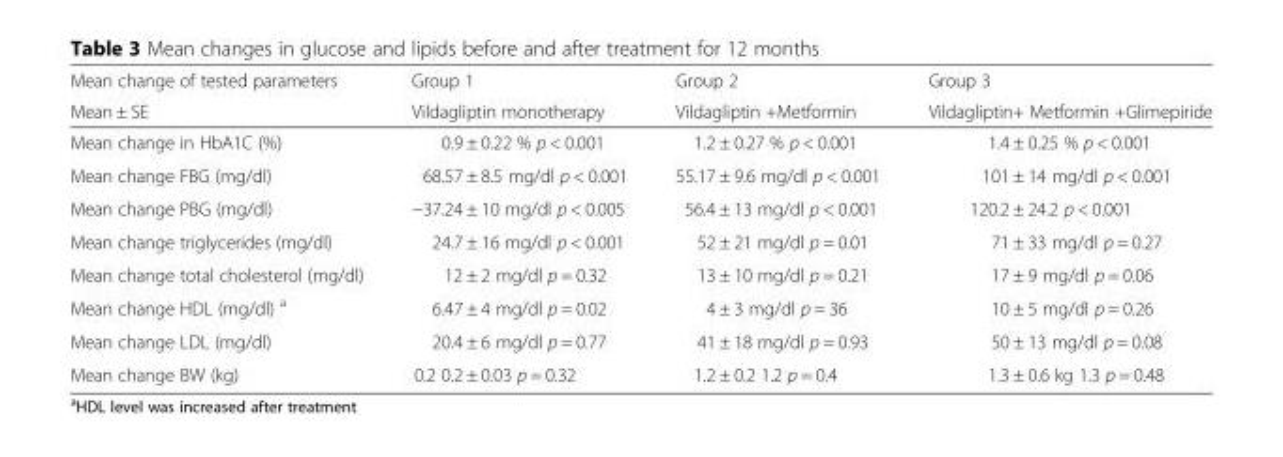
<table><thead><tr><td rowspan="2">Mean change of tested parameters Μean ± SE</td><td rowspan="2">Group 1 Vildagliptin monotherapy</td><td rowspan="2">Group 2 Vildagliptin +Metformin</td><td rowspan="2">Group 3 Vildagliptin+ Metformin +Glimepiride</td></tr><tr></tr></thead><tbody><tr><td>Mean change in HbA1C (%)</td><td>0.9 ± 0.22 % p &lt; 0.001</td><td>1.2 ± 0.27 % p &lt; 0.001</td><td>1.4 ± 0.25 % p &lt; 0.001</td></tr><tr><td>Mean change FBG (mg/dl)</td><td>68.57 ± 8.5 mg/dl p &lt; 0.001</td><td>55.17 ± 9.6 mg/dl p &lt; 0.001</td><td>101 ± 14 mg/dl p &lt; 0.001</td></tr><tr><td>Mean change PBG (mg/dl)</td><td>−37.24 ± 10 mg/dl p &lt; 0.005</td><td>56.4 ± 13 mg/dl p &lt; 0.001</td><td>120.2 ± 24.2 p &lt; 0.001</td></tr><tr><td>Mean change triglycerides (mg/dl)</td><td>24.7 ± 16 mg/dl p &lt; 0.001</td><td>52 ± 21 mg/dl p = 0.01</td><td>71 ± 33 mg/dl p = 0.27</td></tr><tr><td>Mean change total cholesterol (mg/dl)</td><td>12 ± 2 mg/dl p = 0.32</td><td>13 ± 10 mg/dl p = 0.21</td><td>17 ± 9 mg/dl p = 0.06</td></tr><tr><td>Mean change HDL (mg/dl) <sup>a</sup></td><td>6.47 ± 4 mg/dl p = 0.02</td><td>4 ± 3 mg/dl p = 36</td><td>10 ± 5 mg/dl p = 0.26</td></tr><tr><td>Mean change LDL (mg/dl)</td><td>20.4 ± 6 mg/dl p = 0.77</td><td>41 ± 18 mg/dl p = 0.93</td><td>50 ± 13 mg/dl p = 0.08</td></tr><tr><td>Mean change BW (kg)</td><td>0.2 0.2 ± 0.03 p = 0.32</td><td>1.2 ± 0.2 1.2 p = 0.4</td><td>1.3 ± 0.6 kg 1.3 p = 0.48</td></tr></tbody></table>